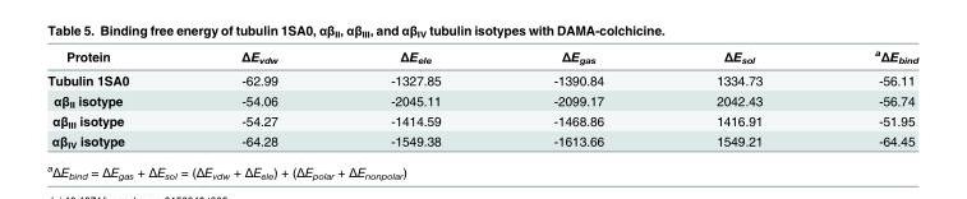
<table><thead><tr><td>Protein</td><td>ΔE<sub>vdw</sub></td><td>ΔE<sub>ele</sub></td><td>ΔE<sub>gas</sub></td><td>ΔE<sub>sol</sub></td><td><sup>a</sup>ΔE<sub>bind</sub></td></tr></thead><tbody><tr><td>Tubulin 1SA0</td><td>-62.99</td><td>-1327.85</td><td>-1390.84</td><td>1334.73</td><td>-56.11</td></tr><tr><td>αβ<sub>II</sub> isotype</td><td>-54.06</td><td>-2045.11</td><td>-2099.17</td><td>2042.43</td><td>-56.74</td></tr><tr><td>αβ<sub>III</sub> isotype</td><td>-54.27</td><td>-1414.59</td><td>-1468.86</td><td>1416.91</td><td>-51.95</td></tr><tr><td>αβ<sub>IV</sub> isotype</td><td>-64.28</td><td>-1549.38</td><td>-1613.66</td><td>1549.21</td><td>-64.45</td></tr></tbody></table>